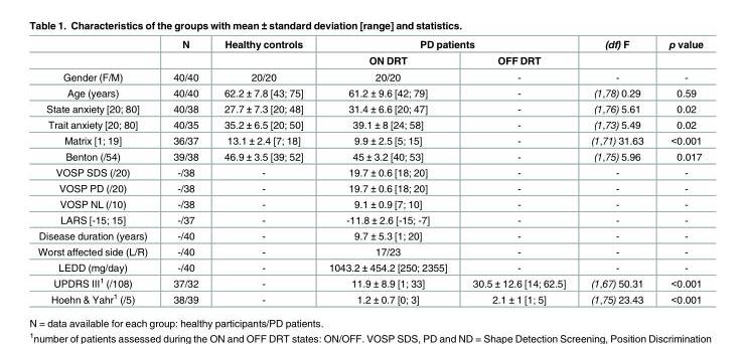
<table><thead><tr><td rowspan="2"></td><td rowspan="2">N</td><td rowspan="2">Healthy controls</td><td colspan="2">PD patients</td><td rowspan="2">(df) F</td><td rowspan="2">p value</td></tr><tr><td>ON DRT</td><td>OFF DRT</td></tr></thead><tbody><tr><td>Gender (F/M)</td><td>40/40</td><td>20/20</td><td>20/20</td><td>-</td><td>-</td><td>-</td></tr><tr><td>Age (years)</td><td>40/40</td><td>62.2 ± 7.8 [43; 75]</td><td>61.2 ± 9.6 [42; 79]</td><td>-</td><td>(1,78) 0.29</td><td>0.59</td></tr><tr><td>State anxiety [20; 80]</td><td>40/38</td><td>27.7 ± 7.3 [20; 48]</td><td>31.4 ± 6.6 [20; 47]</td><td>-</td><td>(1,76) 5.61</td><td>0.02</td></tr><tr><td>Trait anxiety [20; 80]</td><td>40/35</td><td>35.2 ± 6.5 [20; 50]</td><td>39.1 ± 8 [24; 58]</td><td>-</td><td>(1,73) 5.49</td><td>0.02</td></tr><tr><td>Matrix [1; 19]</td><td>36/37</td><td>13.1 ± 2.4 [7; 18]</td><td>9.9 ± 2.5 [5; 15]</td><td>-</td><td>(1,71) 31.63</td><td>&lt;0.001</td></tr><tr><td>Benton (/54)</td><td>39/38</td><td>46.9 ± 3.5 [39; 52]</td><td>45 ± 3.2 [40; 53]</td><td>-</td><td>(1,75) 5.96</td><td>0.017</td></tr><tr><td>VOSP SDS (/20)</td><td>-/38</td><td>-</td><td>19.7 ± 0.6 [18; 20]</td><td>-</td><td>-</td><td>-</td></tr><tr><td>VOSP PD (/20)</td><td>-/38</td><td>-</td><td>19.7 ± 0.6 [18; 20]</td><td>-</td><td>-</td><td>-</td></tr><tr><td>VOSP NL (/10)</td><td>-/38</td><td>-</td><td>9.1 ± 0.9 [7; 10]</td><td>-</td><td>-</td><td>-</td></tr><tr><td>LARS [-15; 15]</td><td>-/37</td><td>-</td><td>-11.8 ± 2.6 [-15; -7]</td><td>-</td><td>-</td><td>-</td></tr><tr><td>Disease duration (years)</td><td>-/40</td><td>-</td><td>9.7 ± 5.3 [1; 20]</td><td>-</td><td>-</td><td>-</td></tr><tr><td>Worst affected side (L/R)</td><td>-/40</td><td>-</td><td>17/23</td><td>-</td><td>-</td><td>-</td></tr><tr><td>LEDD (mg/day)</td><td>-/40</td><td>-</td><td>1043.2 ± 454.2 [250; 2355]</td><td>-</td><td>-</td><td>-</td></tr><tr><td>UPDRS III<sup>1</sup> (/108)</td><td>37/32</td><td>-</td><td>11.9 ± 8.9 [1; 33]</td><td>30.5 ± 12.6 [14; 62.5]</td><td>(1,67) 50.31</td><td>&lt;0.001</td></tr><tr><td>Hoehn &amp; Yahr<sup>1</sup> (/5)</td><td>38/39</td><td>-</td><td>1.2 ± 0.7 [0; 3]</td><td>2.1 ± 1 [1; 5]</td><td>(1,75) 23.43</td><td>&lt;0.001</td></tr></tbody></table>